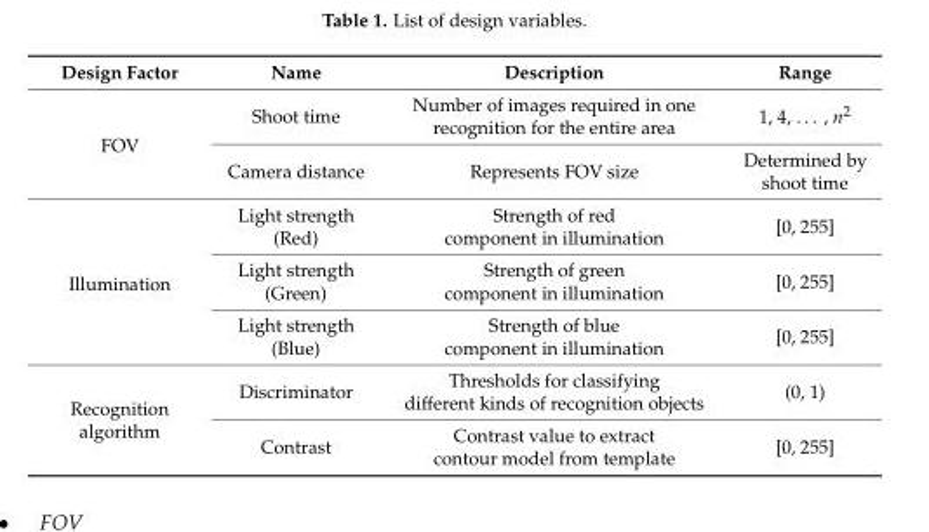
<table><thead><tr><td>Design Factor</td><td>Name</td><td>Description</td><td>Range</td></tr></thead><tbody><tr><td rowspan="2">FOV</td><td>Shoot time</td><td>Number of images required in one recognition for the entire area</td><td>1, 4, . . . , n<sup>2</sup></td></tr><tr><td>Camera distance</td><td>Represents FOV size</td><td>Determined by shoot time</td></tr><tr><td rowspan="3">Illumination</td><td>Light strength (Red)</td><td>Strength of red component in illumination</td><td>[0, 255]</td></tr><tr><td>Light strength (Green)</td><td>Strength of green component in illumination</td><td>[0, 255]</td></tr><tr><td>Light strength (Blue)</td><td>Strength of blue component in illumination</td><td>[0, 255]</td></tr><tr><td rowspan="2">Recognition algorithm</td><td>Discriminator</td><td>Thresholds for classifying different kinds of recognition objects</td><td>(0, 1)</td></tr><tr><td>Contrast</td><td>Contrast value to extract contour model from template</td><td>[0, 255]</td></tr></tbody></table>